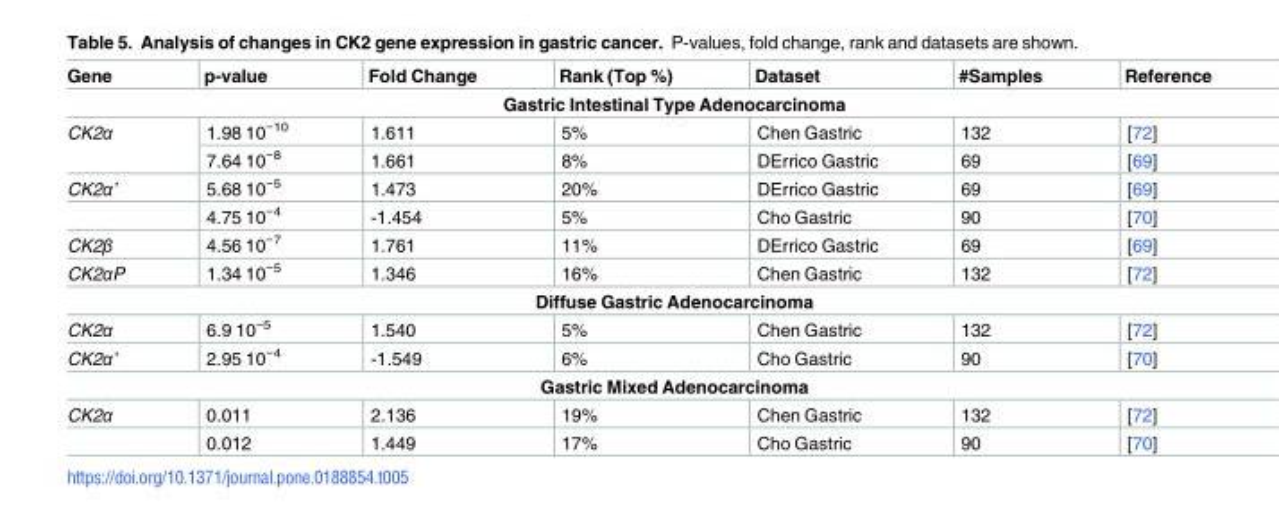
<table><thead><tr><td>Gene</td><td>p-value</td><td>Fold Change</td><td>Rank (Top %)</td><td>Dataset</td><td>#Samples</td><td>Reference</td></tr></thead><tbody><tr><td colspan="7">Gastric Intestinal Type Adenocarcinoma</td></tr><tr><td rowspan="2">CK2α</td><td>1.98 10<sup>−10</sup></td><td>1.611</td><td>5%</td><td>Chen Gastric</td><td>132</td><td>[72]</td></tr><tr><td>7.64 10<sup>−8</sup></td><td>1.661</td><td>8%</td><td>DErrico Gastric</td><td>69</td><td>[69]</td></tr><tr><td rowspan="2">CK2α’</td><td>5.68 10<sup>−5</sup></td><td>1.473</td><td>20%</td><td>DErrico Gastric</td><td>69</td><td>[69]</td></tr><tr><td>4.75 10<sup>−4</sup></td><td>-1.454</td><td>5%</td><td>Cho Gastric</td><td>90</td><td>[70]</td></tr><tr><td>CK2β</td><td>4.56 10<sup>−7</sup></td><td>1.761</td><td>11%</td><td>DErrico Gastric</td><td>69</td><td>[69]</td></tr><tr><td>CK2αP</td><td>1.34 10<sup>−5</sup></td><td>1.346</td><td>16%</td><td>Chen Gastric</td><td>132</td><td>[72]</td></tr><tr><td colspan="7">Diffuse Gastric Adenocarcinoma</td></tr><tr><td>CK2α</td><td>6.9 10<sup>−5</sup></td><td>1.540</td><td>5%</td><td>Chen Gastric</td><td>132</td><td>[72]</td></tr><tr><td>CK2α’</td><td>2.95 10<sup>−4</sup></td><td>-1.549</td><td>6%</td><td>Cho Gastric</td><td>90</td><td>[70]</td></tr><tr><td colspan="7">Gastric Mixed Adenocarcinoma</td></tr><tr><td rowspan="2">CK2α</td><td>0.011</td><td>2.136</td><td>19%</td><td>Chen Gastric</td><td>132</td><td>[72]</td></tr><tr><td>0.012</td><td>1.449</td><td>17%</td><td>Cho Gastric</td><td>90</td><td>[70]</td></tr></tbody></table>